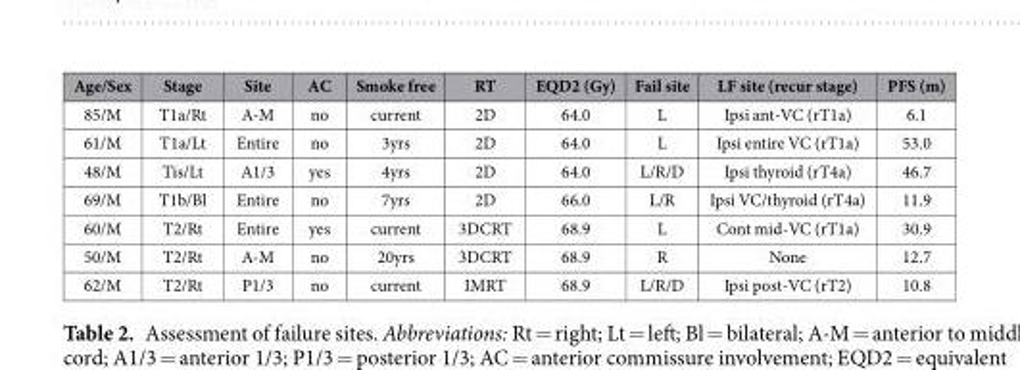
<table><thead><tr><td>Age/Sex</td><td>Stage</td><td>Site</td><td>AC</td><td>Smoke free</td><td>RT</td><td>EQD2 (Gy)</td><td>Fail site</td><td>LF site (recur stage)</td><td>PFS (m)</td></tr></thead><tbody><tr><td>85/M</td><td>T1a/Rt</td><td>A-M</td><td>no</td><td>current</td><td>2D</td><td>64.0</td><td>L</td><td>Ipsi ant-VC (rT1a)</td><td>6.1</td></tr><tr><td>61/M</td><td>T1a/Lt</td><td>Entire</td><td>no</td><td>3yrs</td><td>2D</td><td>64.0</td><td>L</td><td>Ipsi entire VC (rT1a)</td><td>53.0</td></tr><tr><td>48/M</td><td>Tis/Lt</td><td>A1/3</td><td>yes</td><td>4yrs</td><td>2D</td><td>64.0</td><td>L/R/D</td><td>Ipsi thyroid (rT4a)</td><td>46.7</td></tr><tr><td>69/M</td><td>T1b/Bl</td><td>Entire</td><td>no</td><td>7yrs</td><td>2D</td><td>66.0</td><td>L/R</td><td>Ipsi VC/thyroid (rT4a)</td><td>11.9</td></tr><tr><td>60/M</td><td>T2/Rt</td><td>Entire</td><td>yes</td><td>current</td><td>3DCRT</td><td>68.9</td><td>L</td><td>Cont mid-VC (rT1a)</td><td>30.9</td></tr><tr><td>50/M</td><td>T2/Rt</td><td>A-M</td><td>no</td><td>20yrs</td><td>3DCRT</td><td>68.9</td><td>R</td><td>None</td><td>12.7</td></tr><tr><td>62/M</td><td>T2/Rt</td><td>P1/3</td><td>no</td><td>current</td><td>IMRT</td><td>68.9</td><td>L/R/D</td><td>Ipsi post-VC (rT2)</td><td>10.8</td></tr></tbody></table>